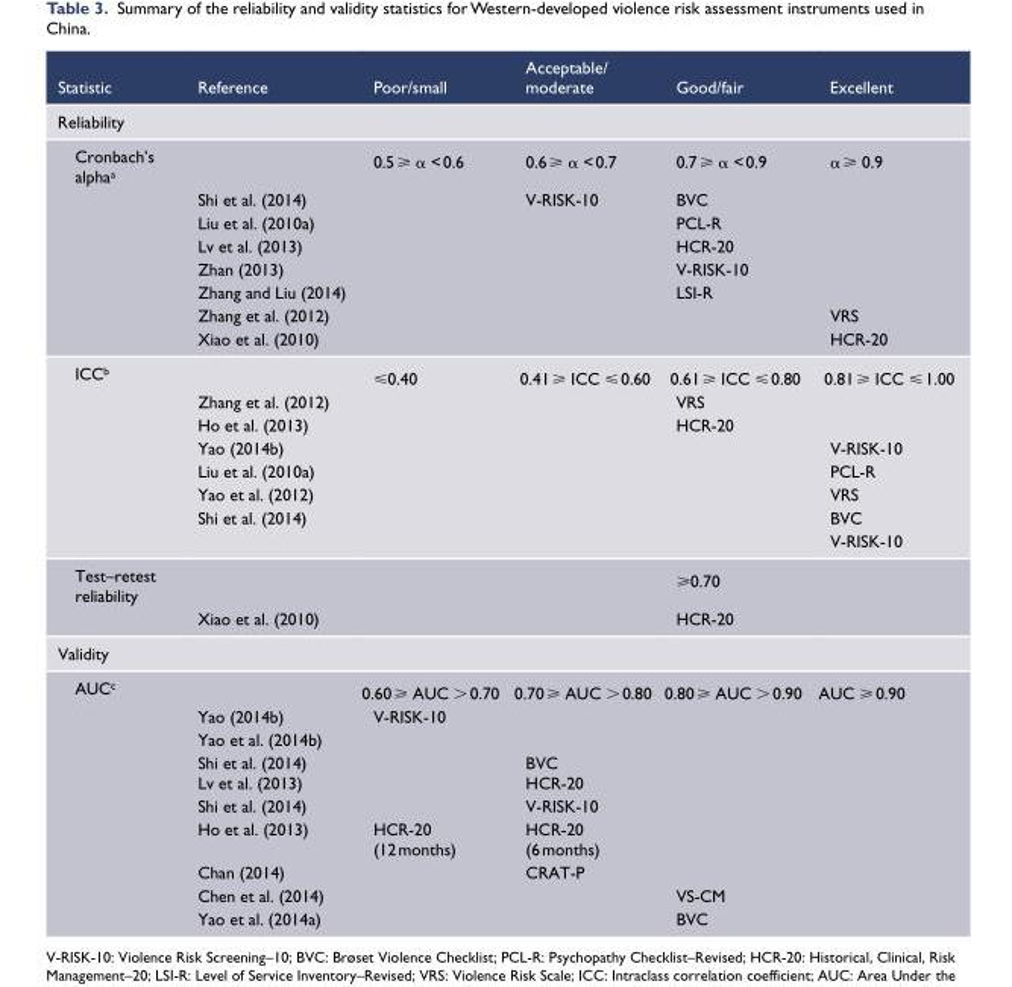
<table><thead><tr><td>Statistic</td><td>Reference</td><td>Poor/small</td><td>Acceptable/ moderate</td><td>Good/fair</td><td>Excellent</td></tr></thead><tbody><tr><td colspan="6">Reliability</td></tr><tr><td rowspan="8">Cronbach’s alpha<sup>a</sup></td><td></td><td>0.5 ⩾ α &lt; 0.6</td><td>0.6 ⩾ α &lt; 0.7</td><td>0.7 ⩾ α &lt; 0.9</td><td>α ⩾ 0.9</td></tr><tr><td>Shi et al. (2014)</td><td></td><td>V-RISK-10</td><td>BVC</td><td></td></tr><tr><td>Liu et al. (2010a)</td><td></td><td></td><td>PCL-R</td><td></td></tr><tr><td>Lv et al. (2013)</td><td></td><td></td><td>HCR-20</td><td></td></tr><tr><td>Zhan (2013)</td><td></td><td></td><td>V-RISK-10</td><td></td></tr><tr><td>Zhang and Liu (2014)</td><td></td><td></td><td>LSI-R</td><td></td></tr><tr><td>Zhang et al. (2012)</td><td></td><td></td><td></td><td>VRS</td></tr><tr><td>Xiao et al. (2010)</td><td></td><td></td><td></td><td>HCR-20</td></tr><tr><td rowspan="8">ICC<sup>b</sup></td><td></td><td>⩽0.40</td><td>0.41 ⩾ ICC ⩽ 0.60</td><td>0.61 ⩾ ICC ⩽ 0.80</td><td>0.81 ⩾ ICC ⩽ 1.00</td></tr><tr><td>Zhang et al. (2012)</td><td></td><td></td><td>VRS</td><td></td></tr><tr><td>Ho et al. (2013)</td><td></td><td></td><td>HCR-20</td><td></td></tr><tr><td>Yao (2014b)</td><td></td><td></td><td></td><td>V-RISK-10</td></tr><tr><td>Liu et al. (2010a)</td><td></td><td></td><td></td><td>PCL-R</td></tr><tr><td>Yao et al. (2012)</td><td></td><td></td><td></td><td>VRS</td></tr><tr><td>Shi et al. (2014)</td><td></td><td></td><td></td><td>BVC</td></tr><tr><td></td><td></td><td></td><td></td><td>V-RISK-10</td></tr><tr><td rowspan="2">Test–retest reliability</td><td></td><td></td><td></td><td>⩾0.70</td><td></td></tr><tr><td>Xiao et al. (2010)</td><td></td><td></td><td>HCR-20</td><td></td></tr><tr><td colspan="6">Validity</td></tr><tr><td rowspan="9">AUC<sup>c</sup></td><td></td><td>0.60 ⩾ AUC &gt; 0.70</td><td>0.70 ⩾ AUC &gt; 0.80</td><td>0.80 ⩾ AUC &gt; 0.90</td><td>AUC ⩾ 0.90</td></tr><tr><td>Yao (2014b)</td><td>V-RISK-10</td><td></td><td></td><td></td></tr><tr><td>Yao et al. (2014b)</td><td></td><td></td><td></td><td></td></tr><tr><td>Shi et al. (2014) Lv et al. (2013)</td><td></td><td>BVC HCR-20</td><td></td><td></td></tr><tr><td>Shi et al. (2014)</td><td></td><td>V-RISK-10</td><td></td><td></td></tr><tr><td>Ho et al. (2013)</td><td>HCR-20 (12 months)</td><td>HCR-20 (6 months)</td><td></td><td></td></tr><tr><td>Chan (2014)</td><td></td><td>CRAT-P</td><td></td><td></td></tr><tr><td>Chen et al. (2014)</td><td></td><td></td><td>VS-CM</td><td></td></tr><tr><td>Yao et al. (2014a)</td><td></td><td></td><td>BVC</td><td></td></tr></tbody></table>